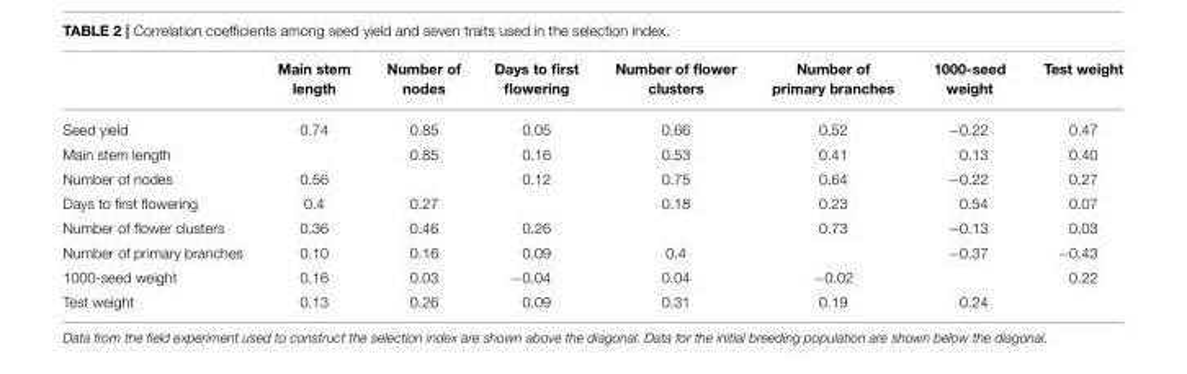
<table><thead><tr><td></td><td>Main stem length</td><td>Number of nodes</td><td>Days to first flowering</td><td>Number of flower clusters</td><td>Number of primary branches</td><td>1000-seed weight</td><td>Test weight</td></tr></thead><tbody><tr><td>Seed yield</td><td>0.74</td><td>0.85</td><td>0.05</td><td>0.66</td><td>0.52</td><td>−0.22</td><td>0.47</td></tr><tr><td>Main stem length</td><td></td><td>0.85</td><td>0.16</td><td>0.53</td><td>0.41</td><td>0.13</td><td>0.40</td></tr><tr><td>Number of nodes</td><td>0.56</td><td></td><td>0.12</td><td>0.75</td><td>0.64</td><td>−0.22</td><td>0.27</td></tr><tr><td>Days to first flowering</td><td>0.4</td><td>0.27</td><td></td><td>0.18</td><td>0.23</td><td>0.54</td><td>0.07</td></tr><tr><td>Number of flower clusters</td><td>0.36</td><td>0.46</td><td>0.26</td><td></td><td>0.73</td><td>−0.13</td><td>0.03</td></tr><tr><td>Number of primary branches</td><td>0.10</td><td>0.16</td><td>0.09</td><td>0.4</td><td></td><td>−0.37</td><td>−0.43</td></tr><tr><td>1000-seed weight</td><td>0.16</td><td>0.03</td><td>−0.04</td><td>0.04</td><td>−0.02</td><td></td><td>0.22</td></tr><tr><td>Test weight</td><td>0.13</td><td>0.26</td><td>0.09</td><td>0.31</td><td>0.19</td><td>0.24</td><td></td></tr></tbody></table>